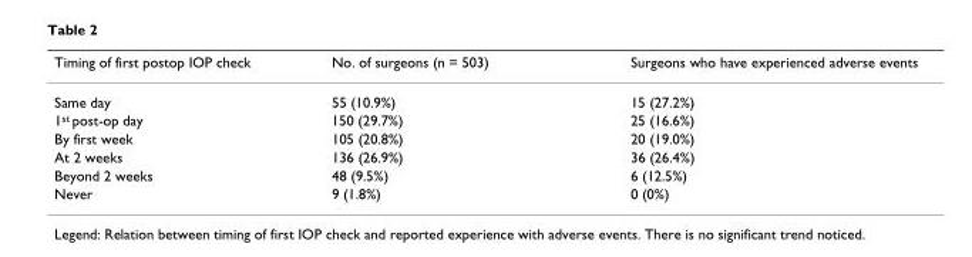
<table><thead><tr><td>Timing of first postop IOP check</td><td>No. of surgeons (n = 503)</td><td>Surgeons who have experienced adverse events</td></tr></thead><tbody><tr><td>Same day</td><td>55 (10.9%)</td><td>15 (27.2%)</td></tr><tr><td>1st post-op day</td><td>150 (29.7%)</td><td>25 (16.6%)</td></tr><tr><td>By first week</td><td>105 (20.8%)</td><td>20 (19.0%)</td></tr><tr><td>At 2 weeks</td><td>136 (26.9%)</td><td>36 (26.4%)</td></tr><tr><td>Beyond 2 weeks</td><td>48 (9.5%)</td><td>6 (12.5%)</td></tr><tr><td>Never</td><td>9 (1.8%)</td><td>0 (0%)</td></tr></tbody></table>